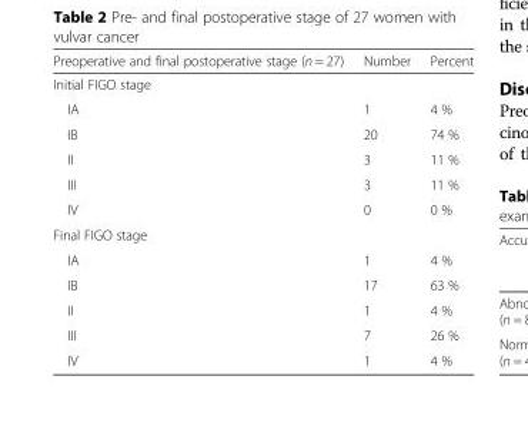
<table><thead><tr><td>Preoperative and final postoperative stage (n = 27)</td><td>Number</td><td>Percent</td></tr></thead><tbody><tr><td colspan="3">Initial FIGO stage</td></tr><tr><td>IA</td><td>1</td><td>4 %</td></tr><tr><td>IB</td><td>20</td><td>74 %</td></tr><tr><td>II</td><td>3</td><td>11 %</td></tr><tr><td>III</td><td>3</td><td>11 %</td></tr><tr><td>IV</td><td>0</td><td>0 %</td></tr><tr><td colspan="3">Final FIGO stage</td></tr><tr><td>IA</td><td>1</td><td>4 %</td></tr><tr><td>IB</td><td>17</td><td>63 %</td></tr><tr><td>II</td><td>1</td><td>4 %</td></tr><tr><td>III</td><td>7</td><td>26 %</td></tr><tr><td>IV</td><td>1</td><td>4 %</td></tr></tbody></table>